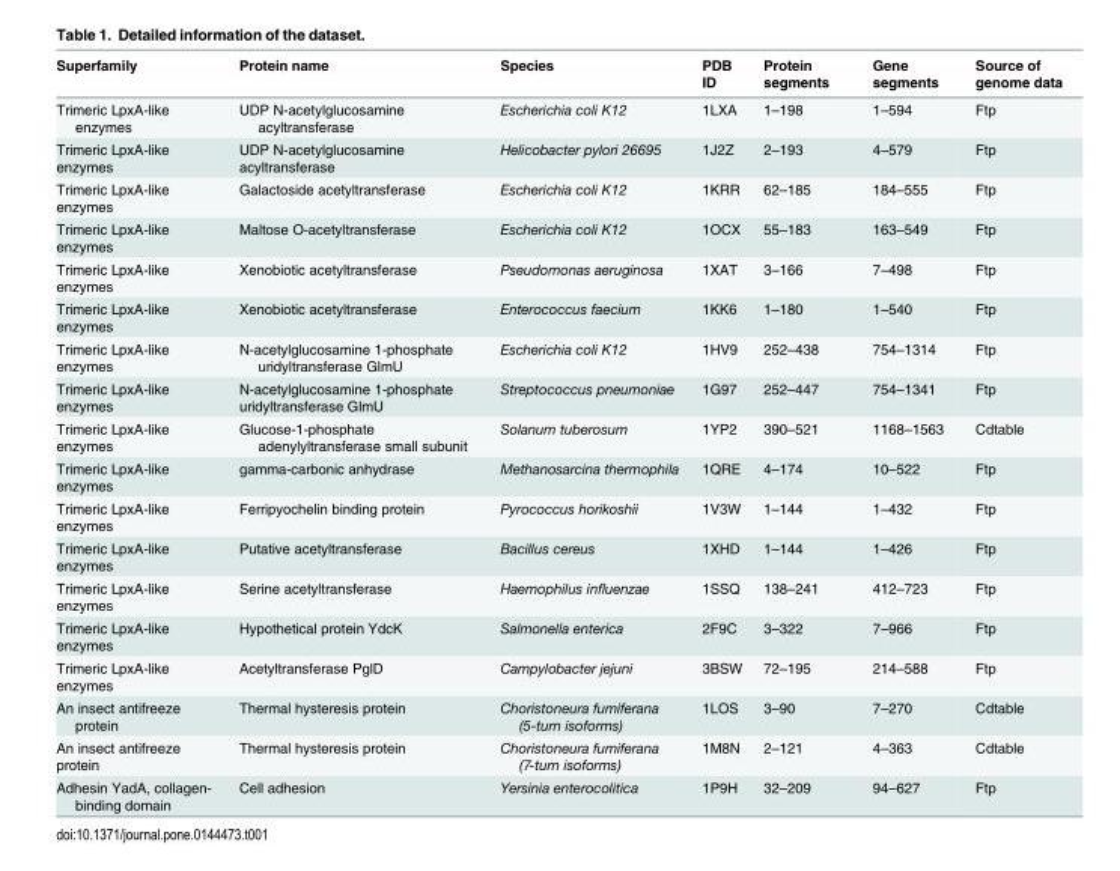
<table><thead><tr><td>Superfamily</td><td>Protein name</td><td>Species</td><td>PDB ID</td><td>Protein segments</td><td>Gene segments</td><td>Source of genome data</td></tr></thead><tbody><tr><td>Trimeric LpxA-like enzymes</td><td>UDP N-acetylglucosamine acyltransferase</td><td>Escherichia coli K12</td><td>1LXA</td><td>1–198</td><td>1–594</td><td>Ftp</td></tr><tr><td>Trimeric LpxA-like enzymes</td><td>UDP N-acetylglucosamine acyltransferase</td><td>Helicobacter pylori 26695</td><td>1J2Z</td><td>2–193</td><td>4–579</td><td>Ftp</td></tr><tr><td>Trimeric LpxA-like enzymes</td><td>Galactoside acetyltransferase</td><td>Escherichia coli K12</td><td>1KRR</td><td>62–185</td><td>184–555</td><td>Ftp</td></tr><tr><td>Trimeric LpxA-like enzymes</td><td>Maltose O-acetyltransferase</td><td>Escherichia coli K12</td><td>1OCX</td><td>55–183</td><td>163–549</td><td>Ftp</td></tr><tr><td>Trimeric LpxA-like enzymes</td><td>Xenobiotic acetyltransferase</td><td>Pseudomonas aeruginosa</td><td>1XAT</td><td>3–166</td><td>7–498</td><td>Ftp</td></tr><tr><td>Trimeric LpxA-like enzymes</td><td>Xenobiotic acetyltransferase</td><td>Enterococcus faecium</td><td>1KK6</td><td>1–180</td><td>1–540</td><td>Ftp</td></tr><tr><td>Trimeric LpxA-like enzymes</td><td>N-acetylglucosamine 1-phosphate uridyltransferase GlmU</td><td>Escherichia coli K12</td><td>1HV9</td><td>252–438</td><td>754–1314</td><td>Ftp</td></tr><tr><td>Trimeric LpxA-like enzymes</td><td>N-acetylglucosamine 1-phosphate uridyltransferase GlmU</td><td>Streptococcus pneumoniae</td><td>1G97</td><td>252–447</td><td>754–1341</td><td>Ftp</td></tr><tr><td>Trimeric LpxA-like enzymes</td><td>Glucose-1-phosphate adenylyltransferase small subunit</td><td>Solanum tuberosum</td><td>1YP2</td><td>390–521</td><td>1168–1563</td><td>Cdtable</td></tr><tr><td>Trimeric LpxA-like enzymes</td><td>gamma-carbonic anhydrase</td><td>Methanosarcina thermophila</td><td>1QRE</td><td>4–174</td><td>10–522</td><td>Ftp</td></tr><tr><td>Trimeric LpxA-like enzymes</td><td>Ferripyochelin binding protein</td><td>Pyrococcus horikoshii</td><td>1V3W</td><td>1–144</td><td>1–432</td><td>Ftp</td></tr><tr><td>Trimeric LpxA-like enzymes</td><td>Putative acetyltransferase</td><td>Bacillus cereus</td><td>1XHD</td><td>1–144</td><td>1–426</td><td>Ftp</td></tr><tr><td>Trimeric LpxA-like enzymes</td><td>Serine acetyltransferase</td><td>Haemophilus influenzae</td><td>1SSQ</td><td>138–241</td><td>412–723</td><td>Ftp</td></tr><tr><td>Trimeric LpxA-like enzymes</td><td>Hypothetical protein YdcK</td><td>Salmonella enterica</td><td>2F9C</td><td>3–322</td><td>7–966</td><td>Ftp</td></tr><tr><td>Trimeric LpxA-like enzymes</td><td>Acetyltransferase PglD</td><td>Campylobacter jejuni</td><td>3BSW</td><td>72–195</td><td>214–588</td><td>Ftp</td></tr><tr><td>An insect antifreeze protein</td><td>Thermal hysteresis protein</td><td>Choristoneura fumiferana (5-turn isoforms)</td><td>1LOS</td><td>3–90</td><td>7–270</td><td>Cdtable</td></tr><tr><td>An insect antifreeze protein</td><td>Thermal hysteresis protein</td><td>Choristoneura fumiferana (7-turn isoforms)</td><td>1M8N</td><td>2–121</td><td>4–363</td><td>Cdtable</td></tr><tr><td>Adhesin YadA, collagen- binding domain</td><td>Cell adhesion</td><td>Yersinia enterocolitica</td><td>1P9H</td><td>32–209</td><td>94–627</td><td>Ftp</td></tr></tbody></table>